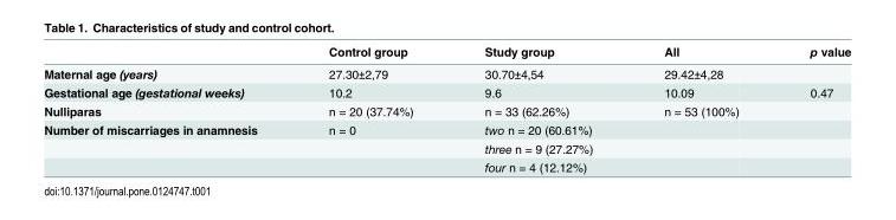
<table><thead><tr><td></td><td>Control group</td><td>Study group</td><td>All</td><td>p value</td></tr></thead><tbody><tr><td>Maternal age (years)</td><td>27.30±2,79</td><td>30.70±4,54</td><td>29.42±4,28</td><td></td></tr><tr><td>Gestational age (gestational weeks)</td><td>10.2</td><td>9.6</td><td>10.09</td><td>0.47</td></tr><tr><td>Nulliparas</td><td>n = 20 (37.74%)</td><td>n = 33 (62.26%)</td><td>n = 53 (100%)</td><td></td></tr><tr><td rowspan="3">Number of miscarriages in anamnesis</td><td>n = 0</td><td>two n = 20 (60.61%)</td><td></td><td></td></tr><tr><td></td><td>three n = 9 (27.27%)</td><td></td><td></td></tr><tr><td></td><td>four n = 4 (12.12%)</td><td></td><td></td></tr></tbody></table>